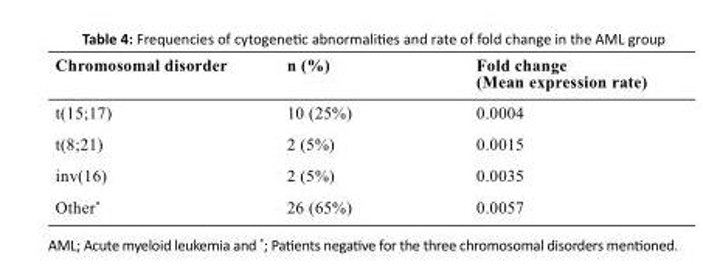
<table><tbody><tr><td>Chromosomal disorder</td><td>n (%)</td><td>Fold change (Mean expression rate)</td></tr><tr><td>t(15;17)</td><td>10 (25%)</td><td>0.0004</td></tr><tr><td>t(8;21)</td><td>2 (5%)</td><td>0.0015</td></tr><tr><td>inv(16)</td><td>2 (5%)</td><td>0.0035</td></tr><tr><td>Other*</td><td>26 (65%)</td><td>0.0057</td></tr></tbody></table>